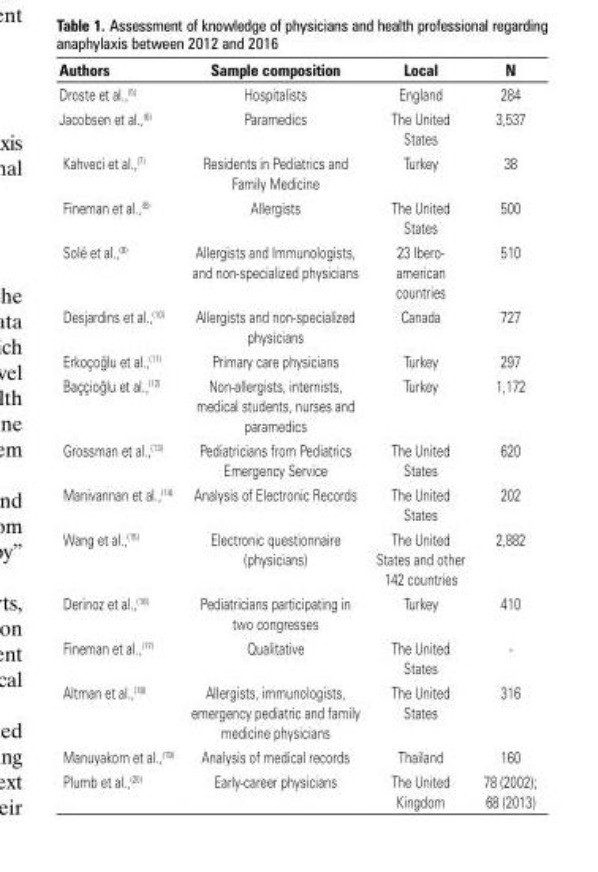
<table><thead><tr><td>Authors</td><td>Sample composition</td><td>Local</td><td>N</td></tr></thead><tbody><tr><td>Droste et al.,<sup>(5)</sup></td><td>Hospitalists</td><td>England</td><td>284</td></tr><tr><td>Jacobsen et al.,<sup>(6)</sup></td><td>Paramedics</td><td>The United States</td><td>3,537</td></tr><tr><td>Kahveci et al.,<sup>(7)</sup></td><td>Residents in Pediatrics and Family Medicine</td><td>Turkey</td><td>38</td></tr><tr><td>Fineman et al.,<sup>(8)</sup></td><td>Allergists</td><td>The United States</td><td>500</td></tr><tr><td>Solé et al.,<sup>(9)</sup></td><td>Allergists and Immunologists, and non-specialized physicians</td><td>23 Ibero- american countries</td><td>510</td></tr><tr><td>Desjardins et al.,<sup>(10)</sup></td><td>Allergists and non-specialized physicians</td><td>Canada</td><td>727</td></tr><tr><td>Erkoçoğlu et al.,<sup>(11)</sup></td><td>Primary care physicians</td><td>Turkey</td><td>297</td></tr><tr><td>Baççioğlu et al.,<sup>(12)</sup></td><td>Non-allergists, internists, medical students, nurses and paramedics</td><td>Turkey</td><td>1,172</td></tr><tr><td rowspan="2">Grossman et al.,<sup>(13)</sup></td><td>Pediatricians from Pediatrics</td><td>The United</td><td>620</td></tr><tr><td>Emergency Service</td><td>States</td><td></td></tr><tr><td>Manivannan et al.,<sup>(14)</sup></td><td>Analysis of Electronic Records</td><td>The United States</td><td>202</td></tr><tr><td>Wang et al.,<sup>(15)</sup></td><td>Electronic questionnaire (physicians)</td><td>The United States and other 142 countries</td><td>2,882</td></tr><tr><td>Derinoz et al.,<sup>(16)</sup></td><td>Pediatricians participating in two congresses</td><td>Turkey</td><td>410</td></tr><tr><td>Fineman et al.,<sup>(17)</sup></td><td>Qualitative</td><td>The United States</td><td>-</td></tr><tr><td>Altman et al.,<sup>(18)</sup></td><td>Allergists, immunologists, emergency pediatric and family medicine physicians</td><td>The United States</td><td>316</td></tr><tr><td>Manuyakorn et al.,<sup>(19)</sup></td><td>Analysis of medical records</td><td>Thailand</td><td>160</td></tr><tr><td>Plumb et al.,<sup>(20)</sup></td><td>Early-career physicians</td><td>The United Kingdom</td><td>78 (2002); 68 (2013)</td></tr></tbody></table>